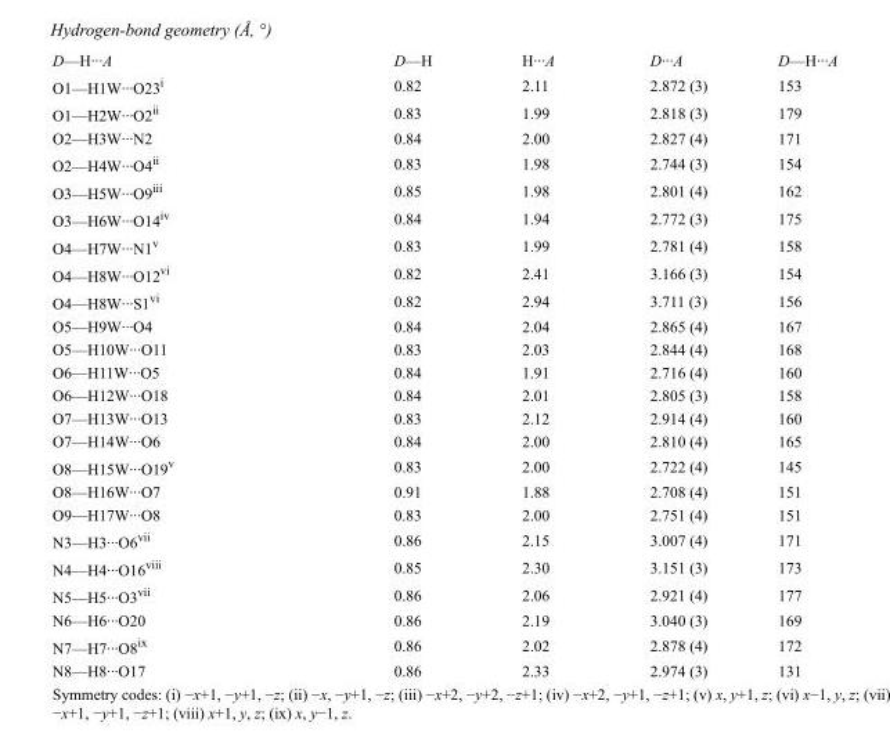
<table><tbody><tr><td>D—H···A</td><td>D—H</td><td>H···A</td><td>D···A</td><td>D—H···A</td></tr><tr><td>O1—H1W···O23<sup>i</sup></td><td>0.82</td><td>2.11</td><td>2.872 (3)</td><td>153</td></tr><tr><td>O1—H2W···O2<sup>ii</sup></td><td>0.83</td><td>1.99</td><td>2.818 (3)</td><td>179</td></tr><tr><td>O2—H3W···N2</td><td>0.84</td><td>2.00</td><td>2.827 (4)</td><td>171</td></tr><tr><td>O2—H4W···O4<sup>ii</sup></td><td>0.83</td><td>1.98</td><td>2.744 (3)</td><td>154</td></tr><tr><td>O3—H5W···O9<sup>iii</sup></td><td>0.85</td><td>1.98</td><td>2.801 (4)</td><td>162</td></tr><tr><td>O3—H6W···O14<sup>iv</sup></td><td>0.84</td><td>1.94</td><td>2.772 (3)</td><td>175</td></tr><tr><td>O4—H7W···N1<sup>v</sup></td><td>0.83</td><td>1.99</td><td>2.781 (4)</td><td>158</td></tr><tr><td>O4—H8W···O12<sup>vi</sup></td><td>0.82</td><td>2.41</td><td>3.166 (3)</td><td>154</td></tr><tr><td>O4—H8W···S1<sup>vi</sup></td><td>0.82</td><td>2.94</td><td>3.711 (3)</td><td>156</td></tr><tr><td>O5—H9W···O4</td><td>0.84</td><td>2.04</td><td>2.865 (4)</td><td>167</td></tr><tr><td>O5—H10W···O11</td><td>0.83</td><td>2.03</td><td>2.844 (4)</td><td>168</td></tr><tr><td>O6—H11W···O5</td><td>0.84</td><td>1.91</td><td>2.716 (4)</td><td>160</td></tr><tr><td>O6—H12W···O18</td><td>0.84</td><td>2.01</td><td>2.805 (3)</td><td>158</td></tr><tr><td>O7—H13W···O13</td><td>0.83</td><td>2.12</td><td>2.914 (4)</td><td>160</td></tr><tr><td>O7—H14W···O6</td><td>0.84</td><td>2.00</td><td>2.810 (4)</td><td>165</td></tr><tr><td>O8—H15W···O19<sup>v</sup></td><td>0.83</td><td>2.00</td><td>2.722 (4)</td><td>145</td></tr><tr><td>O8—H16W···O7</td><td>0.91</td><td>1.88</td><td>2.708 (4)</td><td>151</td></tr><tr><td>O9—H17W···O8</td><td>0.83</td><td>2.00</td><td>2.751 (4)</td><td>151</td></tr><tr><td>N3—H3···O6<sup>vii</sup></td><td>0.86</td><td>2.15</td><td>3.007 (4)</td><td>171</td></tr><tr><td>N4—H4···O16<sup>viii</sup></td><td>0.85</td><td>2.30</td><td>3.151 (3)</td><td>173</td></tr><tr><td>N5—H5···O3<sup>vii</sup></td><td>0.86</td><td>2.06</td><td>2.921 (4)</td><td>177</td></tr><tr><td>N6—H6···O20</td><td>0.86</td><td>2.19</td><td>3.040 (3)</td><td>169</td></tr><tr><td>N7—H7···O8<sup>ix</sup></td><td>0.86</td><td>2.02</td><td>2.878 (4)</td><td>172</td></tr><tr><td>N8—H8···O17</td><td>0.86</td><td>2.33</td><td>2.974 (3)</td><td>131</td></tr></tbody></table>